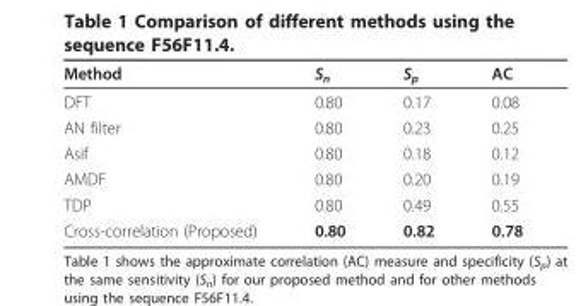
<table><thead><tr><td>Method</td><td>S<sub>n</sub></td><td>S<sub>p</sub></td><td>AC</td></tr></thead><tbody><tr><td>DFT</td><td>0.80</td><td>0.17</td><td>0.08</td></tr><tr><td>AN filter</td><td>0.80</td><td>0.23</td><td>0.25</td></tr><tr><td>Asif</td><td>0.80</td><td>0.18</td><td>0.12</td></tr><tr><td>AMDF</td><td>0.80</td><td>0.20</td><td>0.19</td></tr><tr><td>TDP</td><td>0.80</td><td>0.49</td><td>0.55</td></tr><tr><td>Cross-correlation (Proposed)</td><td>0.80</td><td>0.82</td><td>0.78</td></tr></tbody></table>